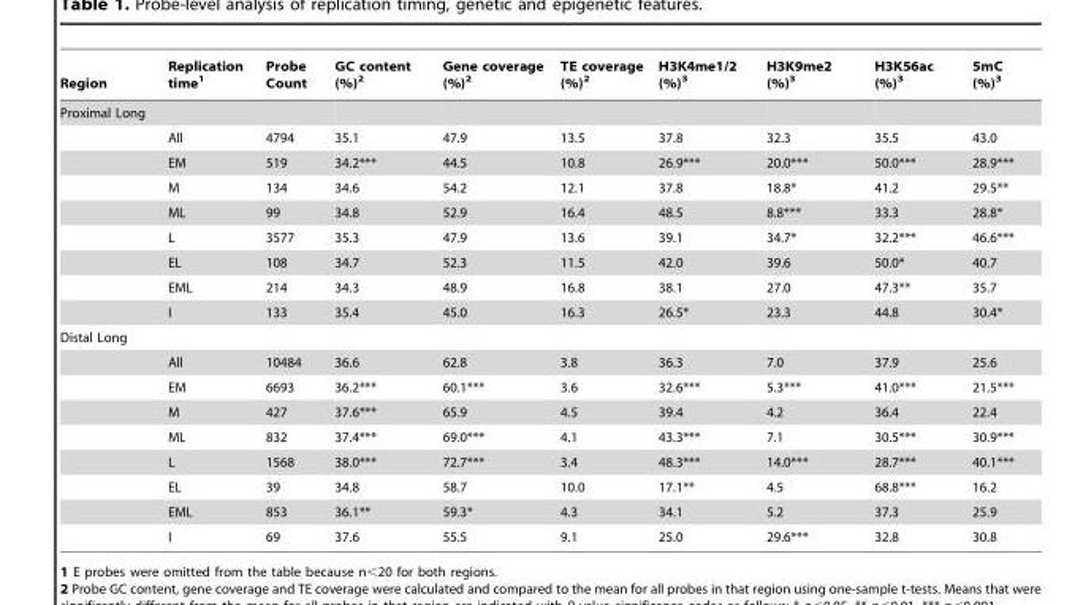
<table><thead><tr><td>Region</td><td>Replication time<sup>1</sup></td><td>Probe Count</td><td>GC content (%)<sup>2</sup></td><td>Gene coverage (%)<sup>2</sup></td><td>TE coverage (%)<sup>2</sup></td><td>H3K4me1/2 (%)<sup>3</sup></td><td>H3K9me2 (%)<sup>3</sup></td><td>H3K56ac (%)<sup>3</sup></td><td>5mC (%)<sup>3</sup></td></tr></thead><tbody><tr><td colspan="10">Proximal Long</td></tr><tr><td></td><td>All</td><td>4794</td><td>35.1</td><td>47.9</td><td>13.5</td><td>37.8</td><td>32.3</td><td>35.5</td><td>43.0</td></tr><tr><td></td><td>EM</td><td>519</td><td>34.2***</td><td>44.5</td><td>10.8</td><td>26.9***</td><td>20.0***</td><td>50.0***</td><td>28.9***</td></tr><tr><td></td><td>M</td><td>134</td><td>34.6</td><td>54.2</td><td>12.1</td><td>37.8</td><td>18.8*</td><td>41.2</td><td>29.5**</td></tr><tr><td></td><td>ML</td><td>99</td><td>34.8</td><td>52.9</td><td>16.4</td><td>48.5</td><td>8.8***</td><td>33.3</td><td>28.8*</td></tr><tr><td></td><td>L</td><td>3577</td><td>35.3</td><td>47.9</td><td>13.6</td><td>39.1</td><td>34.7*</td><td>32.2***</td><td>46.6***</td></tr><tr><td></td><td>EL</td><td>108</td><td>34.7</td><td>52.3</td><td>11.5</td><td>42.0</td><td>39.6</td><td>50.0*</td><td>40.7</td></tr><tr><td></td><td>EML</td><td>214</td><td>34.3</td><td>48.9</td><td>16.8</td><td>38.1</td><td>27.0</td><td>47.3**</td><td>35.7</td></tr><tr><td></td><td>I</td><td>133</td><td>35.4</td><td>45.0</td><td>16.3</td><td>26.5*</td><td>23.3</td><td>44.8</td><td>30.4*</td></tr><tr><td colspan="10">Distal Long</td></tr><tr><td></td><td>All</td><td>10484</td><td>36.6</td><td>62.8</td><td>3.8</td><td>36.3</td><td>7.0</td><td>37.9</td><td>25.6</td></tr><tr><td></td><td>EM</td><td>6693</td><td>36.2***</td><td>60.1***</td><td>3.6</td><td>32.6***</td><td>5.3***</td><td>41.0***</td><td>21.5***</td></tr><tr><td></td><td>M</td><td>427</td><td>37.6***</td><td>65.9</td><td>4.5</td><td>39.4</td><td>4.2</td><td>36.4</td><td>22.4</td></tr><tr><td></td><td>ML</td><td>832</td><td>37.4***</td><td>69.0***</td><td>4.1</td><td>43.3***</td><td>7.1</td><td>30.5***</td><td>30.9***</td></tr><tr><td></td><td>L</td><td>1568</td><td>38.0***</td><td>72.7***</td><td>3.4</td><td>48.3***</td><td>14.0***</td><td>28.7***</td><td>40.1***</td></tr><tr><td></td><td>EL</td><td>39</td><td>34.8</td><td>58.7</td><td>10.0</td><td>17.1**</td><td>4.5</td><td>68.8***</td><td>16.2</td></tr><tr><td></td><td>EML</td><td>853</td><td>36.1**</td><td>59.3*</td><td>4.3</td><td>34.1</td><td>5.2</td><td>37.3</td><td>25.9</td></tr><tr><td></td><td>I</td><td>69</td><td>37.6</td><td>55.5</td><td>9.1</td><td>25.0</td><td>29.6***</td><td>32.8</td><td>30.8</td></tr></tbody></table>